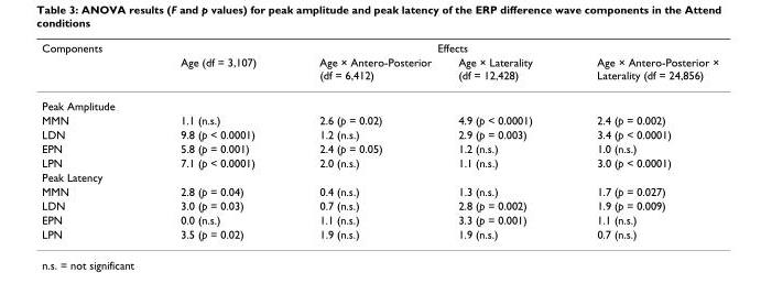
<table><thead><tr><td rowspan="2">Components</td><td colspan="4">Effects</td></tr><tr><td>Age (df = 3,107)</td><td>Age × Antero-Posterior (df = 6,412)</td><td>Age × Laterality (df = 12,428)</td><td>Age × Antero-Posterior × Laterality (df = 24,856)</td></tr></thead><tbody><tr><td colspan="5">Peak Amplitude</td></tr><tr><td>MMN</td><td>1.1 (n.s.)</td><td>2.6 (p = 0.02)</td><td>4.9 (p &lt; 0.0001)</td><td>2.4 (p = 0.002)</td></tr><tr><td>LDN</td><td>9.8 (p &lt; 0.0001)</td><td>1.2 (n.s.)</td><td>2.9 (p = 0.003)</td><td>3.4 (p &lt; 0.0001)</td></tr><tr><td>EPN</td><td>5.8 (p = 0.001)</td><td>2.4 (p = 0.05)</td><td>1.2 (n.s.)</td><td>1.0 (n.s.)</td></tr><tr><td>LPN</td><td>7.1 (p &lt; 0.0001)</td><td>2.0 (n.s.)</td><td>1.1 (n.s.)</td><td>3.0 (p &lt; 0.0001)</td></tr><tr><td colspan="5">Peak Latency</td></tr><tr><td>MMN</td><td>2.8 (p = 0.04)</td><td>0.4 (n.s.)</td><td>1.3 (n.s.)</td><td>1.7 (p = 0.027)</td></tr><tr><td>LDN</td><td>3.0 (p = 0.03)</td><td>0.7 (n.s.)</td><td>2.8 (p = 0.002)</td><td>1.9 (p = 0.009)</td></tr><tr><td>EPN</td><td>0.0 (n.s.)</td><td>1.1 (n.s.)</td><td>3.3 (p = 0.001)</td><td>1.1 (n.s.)</td></tr><tr><td>LPN</td><td>3.5 (p = 0.02)</td><td>1.9 (n.s.)</td><td>1.9 (n.s.)</td><td>0.7 (n.s.)</td></tr></tbody></table>